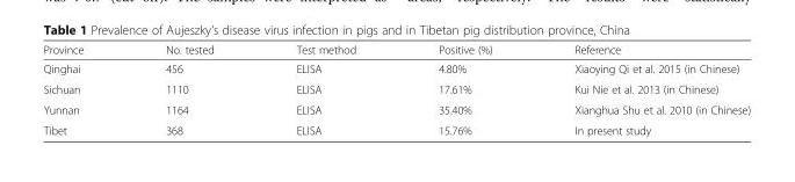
<table><thead><tr><td>Province</td><td>No. tested</td><td>Test method</td><td>Positive (%)</td><td>Reference</td></tr></thead><tbody><tr><td>Qinghai</td><td>456</td><td>ELISA</td><td>4.80%</td><td>Xiaoying Qi et al. 2015 (in Chinese)</td></tr><tr><td>Sichuan</td><td>1110</td><td>ELISA</td><td>17.61%</td><td>Kui Nie et al. 2013 (in Chinese)</td></tr><tr><td>Yunnan</td><td>1164</td><td>ELISA</td><td>35.40%</td><td>Xianghua Shu et al. 2010 (in Chinese)</td></tr><tr><td>Tibet</td><td>368</td><td>ELISA</td><td>15.76%</td><td>In present study</td></tr></tbody></table>